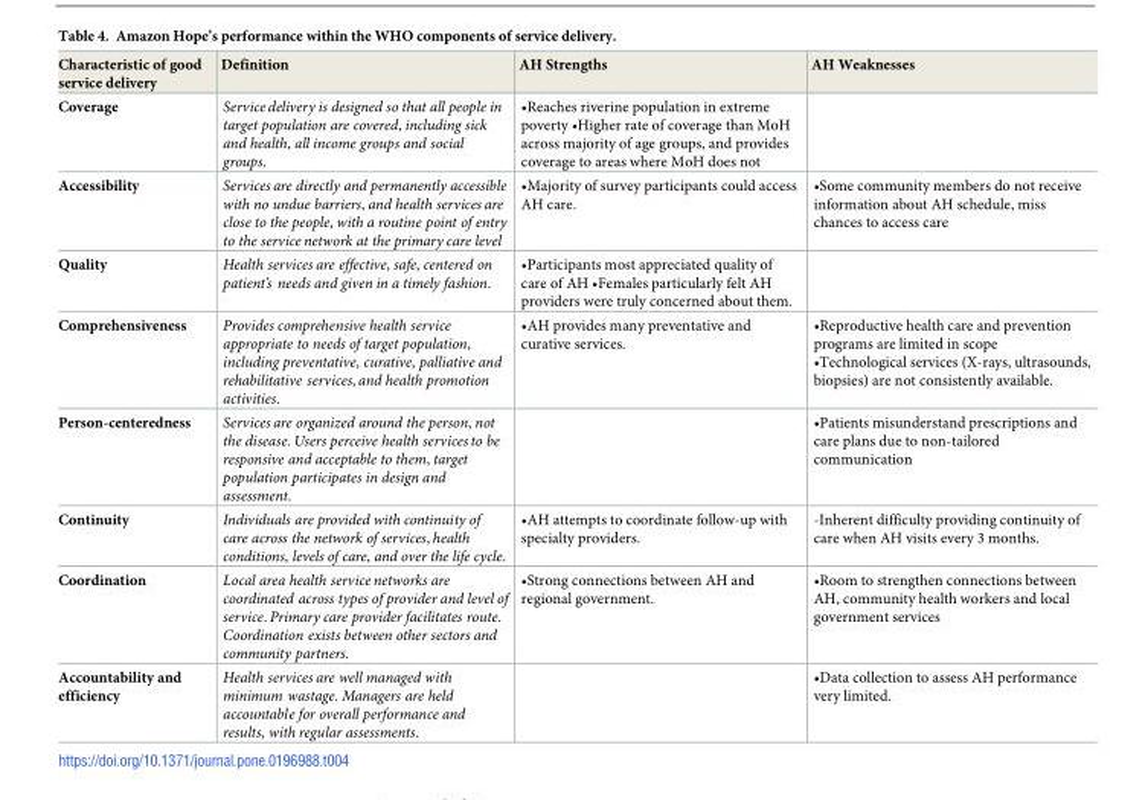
<table><thead><tr><td>Characteristic of good service delivery</td><td>Definition</td><td>AH Strengths</td><td>AH Weaknesses</td></tr></thead><tbody><tr><td>Coverage</td><td>Service delivery is designed so that all people in target population are covered, including sick and health, all income groups and social groups.</td><td>•Reaches riverine population in extreme poverty •Higher rate of coverage than MoH across majority of age groups, and provides coverage to areas where MoH does not</td><td></td></tr><tr><td>Accessibility</td><td>Services are directly and permanently accessible with no undue barriers, and health services are close to the people, with a routine point of entry to the service network at the primary care level</td><td>•Majority of survey participants could access AH care.</td><td>•Some community members do not receive information about AH schedule, miss chances to access care</td></tr><tr><td>Quality</td><td>Health services are effective, safe, centered on patient’s needs and given in a timely fashion.</td><td>•Participants most appreciated quality of care of AH •Females particularly felt AH providers were truly concerned about them.</td><td></td></tr><tr><td>Comprehensiveness</td><td>Provides comprehensive health service appropriate to needs of target population, including preventative, curative, palliative and rehabilitative services, and health promotion activities.</td><td>•AH provides many preventative and curative services.</td><td>•Reproductive health care and prevention programs are limited in scope •Technological services (X-rays, ultrasounds, biopsies) are not consistently available.</td></tr><tr><td>Person-centeredness</td><td>Services are organized around the person, not the disease. Users perceive health services to be responsive and acceptable to them, target population participates in design and assessment.</td><td></td><td>•Patients misunderstand prescriptions and care plans due to non-tailored communication</td></tr><tr><td>Continuity</td><td>Individuals are provided with continuity of care across the network of services, health conditions, levels of care, and over the life cycle.</td><td>•AH attempts to coordinate follow-up with specialty providers.</td><td>-Inherent difficulty providing continuity of care when AH visits every 3 months.</td></tr><tr><td>Coordination</td><td>Local area health service networks are coordinated across types of provider and level of service. Primary care provider facilitates route. Coordination exists between other sectors and community partners.</td><td>•Strong connections between AH and regional government.</td><td>•Room to strengthen connections between AH, community health workers and local government services</td></tr><tr><td>Accountability and efficiency</td><td>Health services are well managed with minimum wastage. Managers are held accountable for overall performance and results, with regular assessments.</td><td></td><td>•Data collection to assess AH performance very limited.</td></tr></tbody></table>